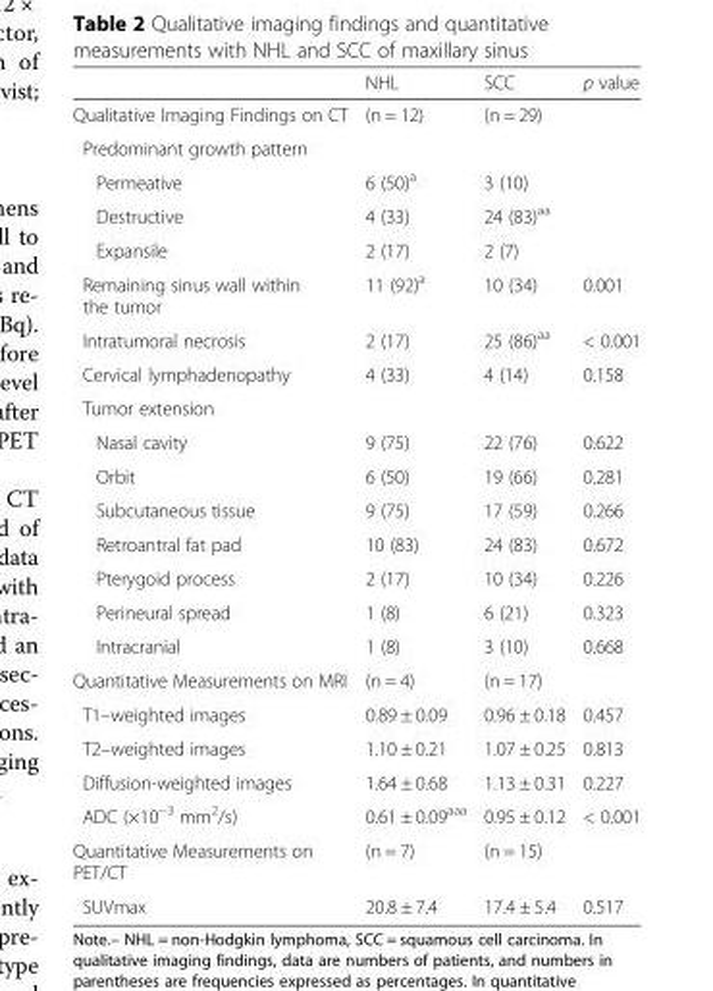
<table><thead><tr><td></td><td>NHL</td><td>SCC</td><td>p value</td></tr></thead><tbody><tr><td>Qualitative Imaging Findings on CT</td><td>(n = 12)</td><td>(n = 29)</td><td></td></tr><tr><td colspan="4">Predominant growth pattern</td></tr><tr><td>Permeative</td><td>6 (50)<sup>a</sup></td><td>3 (10)</td><td></td></tr><tr><td>Destructive</td><td>4 (33)</td><td>24 (83)<sup>aa</sup></td><td></td></tr><tr><td>Expansile</td><td>2 (17)</td><td>2 (7)</td><td></td></tr><tr><td>Remaining sinus wall within the tumor</td><td>11 (92)<sup>a</sup></td><td>10 (34)</td><td>0.001</td></tr><tr><td>Intratumoral necrosis</td><td>2 (17)</td><td>25 (86)<sup>aa</sup></td><td>&lt; 0.001</td></tr><tr><td>Cervical lymphadenopathy</td><td>4 (33)</td><td>4 (14)</td><td>0.158</td></tr><tr><td colspan="4">Tumor extension</td></tr><tr><td>Nasal cavity</td><td>9 (75)</td><td>22 (76)</td><td>0.622</td></tr><tr><td>Orbit</td><td>6 (50)</td><td>19 (66)</td><td>0.281</td></tr><tr><td>Subcutaneous tissue</td><td>9 (75)</td><td>17 (59)</td><td>0.266</td></tr><tr><td>Retroantral fat pad</td><td>10 (83)</td><td>24 (83)</td><td>0.672</td></tr><tr><td>Pterygoid process</td><td>2 (17)</td><td>10 (34)</td><td>0.226</td></tr><tr><td>Perineural spread</td><td>1 (8)</td><td>6 (21)</td><td>0.323</td></tr><tr><td>Intracranial</td><td>1 (8)</td><td>3 (10)</td><td>0.668</td></tr><tr><td>Quantitative Measurements on MRI</td><td>(n = 4)</td><td>(n = 17)</td><td></td></tr><tr><td>T1–weighted images</td><td>0.89 ± 0.09</td><td>0.96 ± 0.18</td><td>0.457</td></tr><tr><td>T2–weighted images</td><td>1.10 ± 0.21</td><td>1.07 ± 0.25</td><td>0.813</td></tr><tr><td>Diffusion-weighted images</td><td>1.64 ± 0.68</td><td>1.13 ± 0.31</td><td>0.227</td></tr><tr><td>ADC (×10<sup>−3</sup> mm<sup>2</sup>/s)</td><td>0.61 ± 0.09<sup>aaa</sup></td><td>0.95 ± 0.12</td><td>&lt; 0.001</td></tr><tr><td>Quantitative Measurements on PET/CT</td><td>(n = 7)</td><td>(n = 15)</td><td></td></tr><tr><td>SUVmax</td><td>20.8 ± 7.4</td><td>17.4 ± 5.4</td><td>0.517</td></tr></tbody></table>